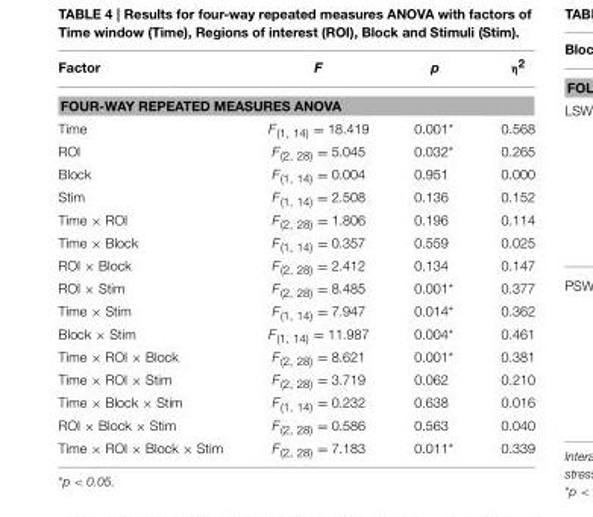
<table><thead><tr><td>Factor</td><td>F</td><td>p</td><td>η<sup>2</sup></td></tr></thead><tbody><tr><td colspan="4">FOUR-WAY REPEATED MEASURES ANOVA</td></tr><tr><td>Time</td><td>F<sub>(1, 14)</sub> = 18.419</td><td>0.001*</td><td>0.568</td></tr><tr><td>ROI</td><td>F<sub>(2, 28)</sub> = 5.045</td><td>0.032*</td><td>0.265</td></tr><tr><td>Block</td><td>F<sub>(1, 14)</sub> = 0.004</td><td>0.951</td><td>0.000</td></tr><tr><td>Stim</td><td>F<sub>(1, 14)</sub> = 2.508</td><td>0.136</td><td>0.152</td></tr><tr><td>Time × ROI</td><td>F<sub>(2, 28)</sub> = 1.806</td><td>0.196</td><td>0.114</td></tr><tr><td>Time × Block</td><td>F<sub>(1, 14)</sub> = 0.357</td><td>0.559</td><td>0.025</td></tr><tr><td>ROI × Block</td><td>F<sub>(2, 28)</sub> = 2.412</td><td>0.134</td><td>0.147</td></tr><tr><td>ROI × Stim</td><td>F<sub>(2, 28)</sub> = 8.485</td><td>0.001*</td><td>0.377</td></tr><tr><td>Time × Stim</td><td>F<sub>(1, 14)</sub> = 7.947</td><td>0.014*</td><td>0.362</td></tr><tr><td>Block × Stim</td><td>F<sub>(1, 14)</sub> = 11.987</td><td>0.004*</td><td>0.461</td></tr><tr><td>Time × ROI × Block</td><td>F<sub>(2, 28)</sub> = 8.621</td><td>0.001*</td><td>0.381</td></tr><tr><td>Time × ROI × Stim</td><td>F<sub>(2, 28)</sub> = 3.719</td><td>0.062</td><td>0.210</td></tr><tr><td>Time × Block × Stim</td><td>F<sub>(1, 14)</sub> = 0.232</td><td>0.638</td><td>0.016</td></tr><tr><td>ROI × Block × Stim</td><td>F<sub>(2, 28)</sub> = 0.586</td><td>0.563</td><td>0.040</td></tr><tr><td>Time × ROI × Block × Stim</td><td>F<sub>(2, 28)</sub> = 7.183</td><td>0.011*</td><td>0.339</td></tr></tbody></table>